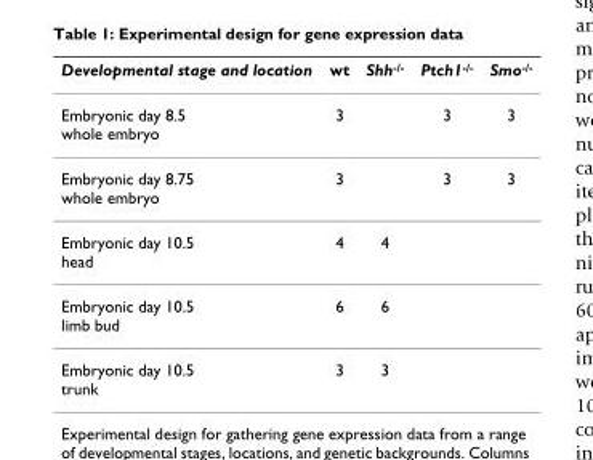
<table><thead><tr><td>Developmental stage and location</td><td>wt</td><td>Shh<sup>-/-</sup></td><td>Ptch1<sup>-/-</sup></td><td>Smo<sup>-/-</sup></td></tr></thead><tbody><tr><td>Embryonic day 8.5 whole embryo</td><td>3</td><td></td><td>3</td><td>3</td></tr><tr><td>Embryonic day 8.75 whole embryo</td><td>3</td><td></td><td>3</td><td>3</td></tr><tr><td>Embryonic day 10.5 head</td><td>4</td><td>4</td><td></td><td></td></tr><tr><td>Embryonic day 10.5 limb bud</td><td>6</td><td>6</td><td></td><td></td></tr><tr><td>Embryonic day 10.5 trunk</td><td>3</td><td>3</td><td></td><td></td></tr></tbody></table>